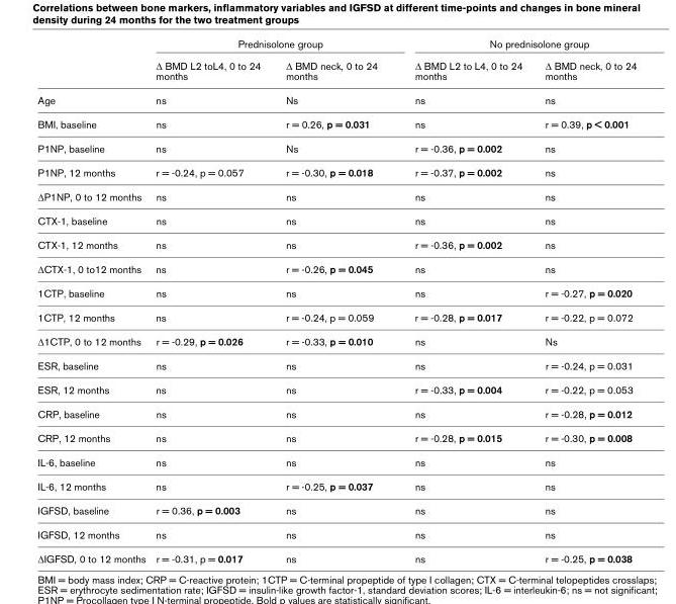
<table><thead><tr><td rowspan="2"></td><td colspan="2">Prednisolone group</td><td colspan="2">No prednisolone group</td></tr><tr><td>Δ BMD L2 toL4, 0 to 24 months</td><td>Δ BMD neck, 0 to 24 months</td><td>Δ BMD L2 to L4, 0 to 24 months</td><td>Δ BMD neck, 0 to 24 months</td></tr></thead><tbody><tr><td>Age</td><td>ns</td><td>Ns</td><td>ns</td><td>ns</td></tr><tr><td>BMI, baseline</td><td>ns</td><td>r = 0.26, p = 0.031</td><td>ns</td><td>r = 0.39, p &lt; 0.001</td></tr><tr><td>P1NP, baseline</td><td>ns</td><td>Ns</td><td>r = -0.36, p = 0.002</td><td>ns</td></tr><tr><td>P1NP, 12 months</td><td>r = -0.24, p = 0.057</td><td>r = -0.30, p = 0.018</td><td>r = -0.37, p = 0.002</td><td>ns</td></tr><tr><td>ΔP1NP, 0 to 12 months</td><td>ns</td><td>ns</td><td>ns</td><td>ns</td></tr><tr><td>CTX-1, baseline</td><td>ns</td><td>ns</td><td>ns</td><td>ns</td></tr><tr><td>CTX-1, 12 months</td><td>ns</td><td>ns</td><td>r = -0.36, p = 0.002</td><td>ns</td></tr><tr><td>ΔCTX-1, 0 to12 months</td><td>ns</td><td>r = -0.26, p = 0.045</td><td>ns</td><td>ns</td></tr><tr><td>1CTP, baseline</td><td>ns</td><td>ns</td><td>ns</td><td>r = -0.27, p = 0.020</td></tr><tr><td>1CTP, 12 months</td><td>ns</td><td>r = -0.24, p = 0.059</td><td>r = -0.28, p = 0.017</td><td>r = -0.22, p = 0.072</td></tr><tr><td>Δ1CTP, 0 to 12 months</td><td>r = -0.29, p = 0.026</td><td>r = -0.33, p = 0.010</td><td>ns</td><td>Ns</td></tr><tr><td>ESR, baseline</td><td>ns</td><td>ns</td><td>ns</td><td>r = -0.24, p = 0.031</td></tr><tr><td>ESR, 12 months</td><td>ns</td><td>ns</td><td>r = -0.33, p = 0.004</td><td>r = -0.22, p = 0.053</td></tr><tr><td>CRP, baseline</td><td>ns</td><td>ns</td><td>ns</td><td>r = -0.28, p = 0.012</td></tr><tr><td>CRP, 12 months</td><td>ns</td><td>ns</td><td>r = -0.28, p = 0.015</td><td>r = -0.30, p = 0.008</td></tr><tr><td>IL-6, baseline</td><td>ns</td><td>ns</td><td>ns</td><td>ns</td></tr><tr><td>IL-6, 12 months</td><td>ns</td><td>r = -0.25, p = 0.037</td><td>ns</td><td>ns</td></tr><tr><td>IGFSD, baseline</td><td>r = 0.36, p = 0.003</td><td>ns</td><td>ns</td><td>ns</td></tr><tr><td>IGFSD, 12 months</td><td>ns</td><td>ns</td><td>ns</td><td>ns</td></tr><tr><td>ΔIGFSD, 0 to 12 months</td><td>r = -0.31, p = 0.017</td><td>ns</td><td>ns</td><td>r = -0.25, p = 0.038</td></tr></tbody></table>